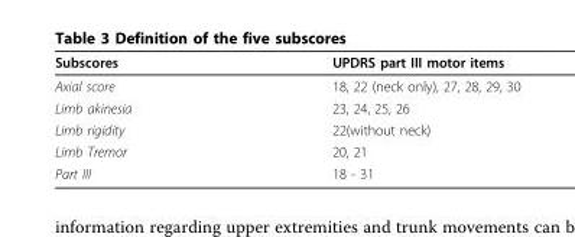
<table><thead><tr><td>Subscores</td><td>UPDRS part III motor items</td></tr></thead><tbody><tr><td>Axial score</td><td>18, 22 (neck only), 27, 28, 29, 30</td></tr><tr><td>Limb akinesia</td><td>23, 24, 25, 26</td></tr><tr><td>Limb rigidity</td><td>22(without neck)</td></tr><tr><td>Limb Tremor</td><td>20, 21</td></tr><tr><td>Part III</td><td>18 - 31</td></tr></tbody></table>